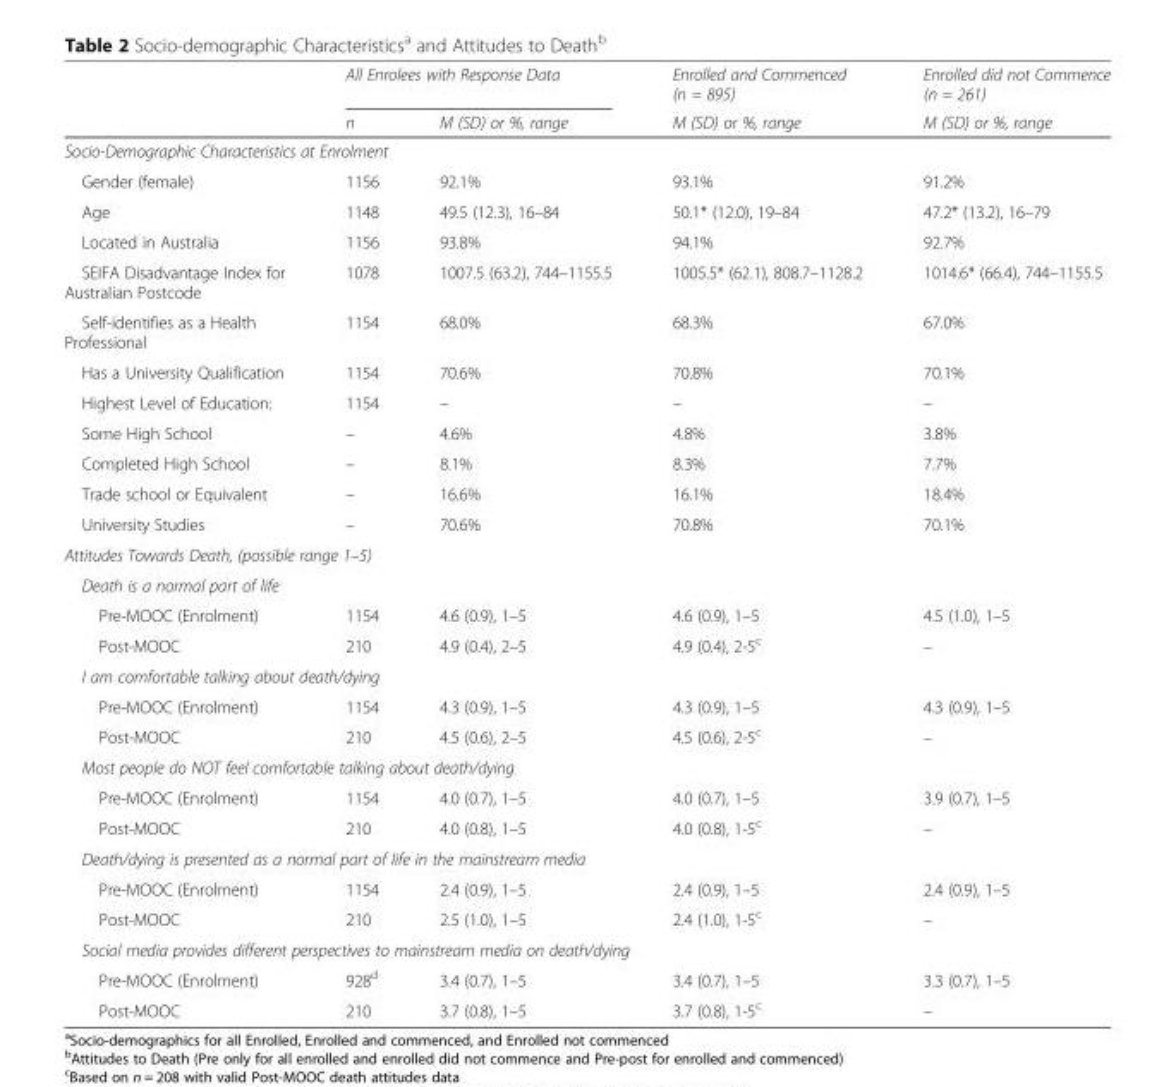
<table><thead><tr><td rowspan="2"></td><td colspan="2">All Enrolees with Response Data</td><td rowspan="2">Enrolled and Commenced (n = 895) M (SD) or %, range</td><td rowspan="2">Enrolled did not Commence (n = 261) M (SD) or %, range</td></tr><tr><td>n</td><td>M (SD) or %, range</td></tr></thead><tbody><tr><td colspan="5">Socio-Demographic Characteristics at Enrolment</td></tr><tr><td>Gender (female)</td><td>1156</td><td>92.1%</td><td>93.1%</td><td>91.2%</td></tr><tr><td>Age</td><td>1148</td><td>49.5 (12.3), 16–84</td><td>50.1* (12.0), 19–84</td><td>47.2* (13.2), 16–79</td></tr><tr><td>Located in Australia</td><td>1156</td><td>93.8%</td><td>94.1%</td><td>92.7%</td></tr><tr><td>SEIFA Disadvantage Index for Australian Postcode</td><td>1078</td><td>1007.5 (63.2), 744–1155.5</td><td>1005.5* (62.1), 808.7–1128.2</td><td>1014.6* (66.4), 744–1155.5</td></tr><tr><td>Self-identifies as a Health Professional</td><td>1154</td><td>68.0%</td><td>68.3%</td><td>67.0%</td></tr><tr><td>Has a University Qualification</td><td>1154</td><td>70.6%</td><td>70.8%</td><td>70.1%</td></tr><tr><td>Highest Level of Education:</td><td>1154</td><td>–</td><td>–</td><td>–</td></tr><tr><td>Some High School</td><td>–</td><td>4.6%</td><td>4.8%</td><td>3.8%</td></tr><tr><td>Completed High School</td><td>–</td><td>8.1%</td><td>8.3%</td><td>7.7%</td></tr><tr><td>Trade school or Equivalent</td><td>–</td><td>16.6%</td><td>16.1%</td><td>18.4%</td></tr><tr><td>University Studies</td><td>–</td><td>70.6%</td><td>70.8%</td><td>70.1%</td></tr><tr><td colspan="5">Attitudes Towards Death, (possible range 1–5)</td></tr><tr><td colspan="5">Death is a normal part of life</td></tr><tr><td>Pre-MOOC (Enrolment)</td><td>1154</td><td>4.6 (0.9), 1–5</td><td>4.6 (0.9), 1–5</td><td>4.5 (1.0), 1–5</td></tr><tr><td>Post-MOOC</td><td>210</td><td>4.9 (0.4), 2–5</td><td>4.9 (0.4), 2-5<sup>c</sup></td><td>–</td></tr><tr><td colspan="5">I am comfortable talking about death/dying</td></tr><tr><td>Pre-MOOC (Enrolment)</td><td>1154</td><td>4.3 (0.9), 1–5</td><td>4.3 (0.9), 1–5</td><td>4.3 (0.9), 1–5</td></tr><tr><td>Post-MOOC</td><td>210</td><td>4.5 (0.6), 2–5</td><td>4.5 (0.6), 2-5<sup>c</sup></td><td>–</td></tr><tr><td colspan="5">Most people do NOT feel comfortable talking about death/dying</td></tr><tr><td>Pre-MOOC (Enrolment)</td><td>1154</td><td>4.0 (0.7), 1–5</td><td>4.0 (0.7), 1–5</td><td>3.9 (0.7), 1–5</td></tr><tr><td>Post-MOOC</td><td>210</td><td>4.0 (0.8), 1–5</td><td>4.0 (0.8), 1-5<sup>c</sup></td><td>–</td></tr><tr><td colspan="5">Death/dying is presented as a normal part of life in the mainstream media</td></tr><tr><td>Pre-MOOC (Enrolment)</td><td>1154</td><td>2.4 (0.9), 1–5</td><td>2.4 (0.9), 1–5</td><td>2.4 (0.9), 1–5</td></tr><tr><td>Post-MOOC</td><td>210</td><td>2.5 (1.0), 1–5</td><td>2.4 (1.0), 1-5<sup>c</sup></td><td>–</td></tr><tr><td colspan="5">Social media provides different perspectives to mainstream media on death/dying</td></tr><tr><td>Pre-MOOC (Enrolment)</td><td>928<sup>d</sup></td><td>3.4 (0.7), 1–5</td><td>3.4 (0.7), 1–5</td><td>3.3 (0.7), 1–5</td></tr><tr><td>Post-MOOC</td><td>210</td><td>3.7 (0.8), 1–5</td><td>3.7 (0.8), 1-5<sup>c</sup></td><td>–</td></tr></tbody></table>